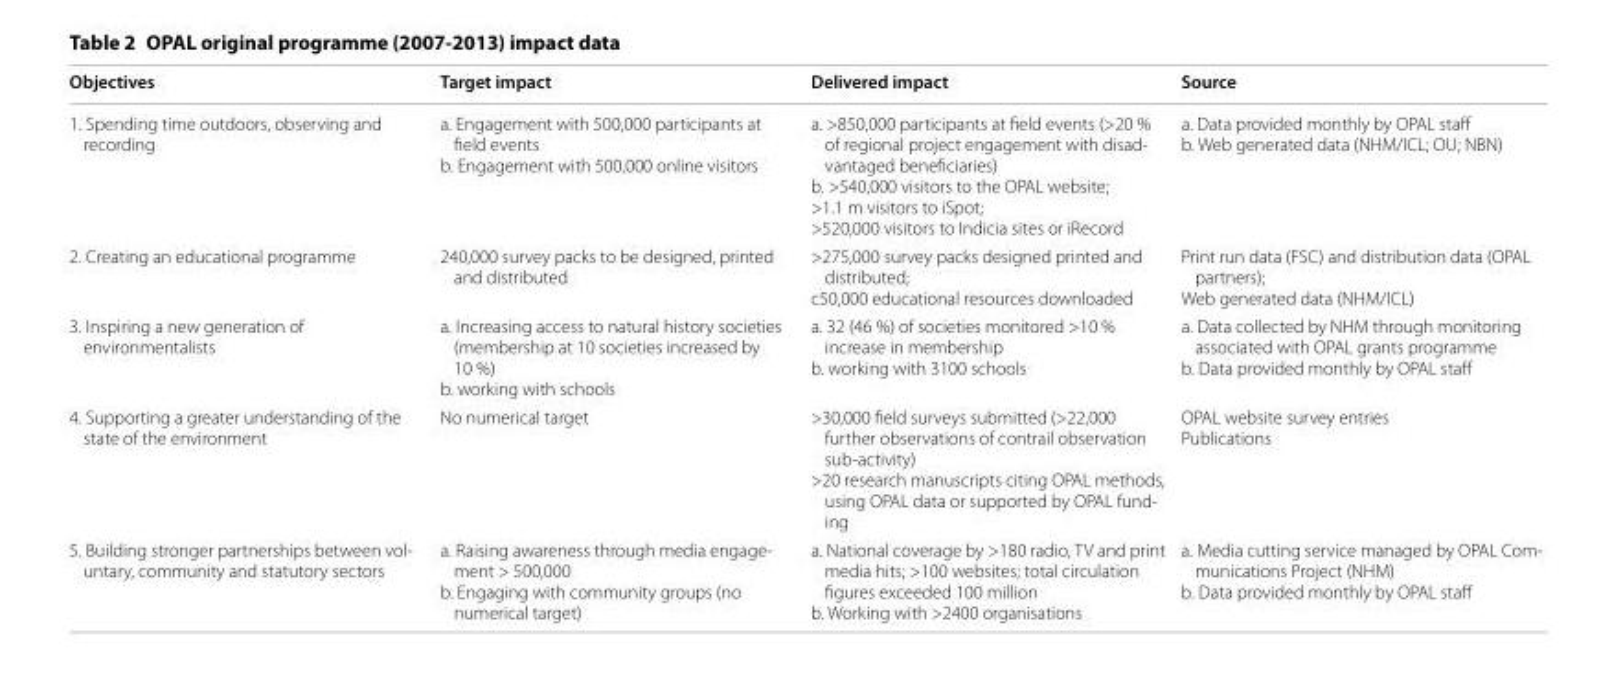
<table><thead><tr><td>Objectives</td><td>Target impact</td><td>Delivered impact</td><td>Source</td></tr></thead><tbody><tr><td>1. Spending time outdoors, observing and recording</td><td>a. Engagement with 500,000 participants at field events b. Engagement with 500,000 online visitors</td><td>a. &gt;850,000 participants at field events (&gt;20 % of regional project engagement with disad‑ vantaged beneficiaries) b. &gt;540,000 visitors to the OPAL website; &gt;1.1 m visitors to iSpot; &gt;520,000 visitors to Indicia sites or iRecord</td><td>a. Data provided monthly by OPAL staff b. Web generated data (NHM/ICL; OU; NBN)</td></tr><tr><td>2. Creating an educational programme</td><td>240,000 survey packs to be designed, printed and distributed</td><td>&gt;275,000 survey packs designed printed and distributed; c50,000 educational resources downloaded</td><td>Print run data (FSC) and distribution data (OPAL partners); Web generated data (NHM/ICL)</td></tr><tr><td>3. Inspiring a new generation of environmentalists</td><td>a. Increasing access to natural history societies (membership at 10 societies increased by 10 %) b. working with schools</td><td>a. 32 (46 %) of societies monitored &gt;10 % increase in membership b. working with 3100 schools</td><td>a. Data collected by NHM through monitoring associated with OPAL grants programme b. Data provided monthly by OPAL staff</td></tr><tr><td>4. Supporting a greater understanding of the state of the environment</td><td>No numerical target</td><td>&gt;30,000 field surveys submitted (&gt;22,000 further observations of contrail observation sub‑activity) &gt;20 research manuscripts citing OPAL methods, using OPAL data or supported by OPAL fund‑ ing</td><td>OPAL website survey entries Publications</td></tr><tr><td>5. Building stronger partnerships between vol‑ untary, community and statutory sectors</td><td>a. Raising awareness through media engage‑ ment &gt; 500,000 b. Engaging with community groups (no numerical target)</td><td>a. National coverage by &gt;180 radio, TV and print media hits; &gt;100 websites; total circulation figures exceeded 100 million b. Working with &gt;2400 organisations</td><td>a. Media cutting service managed by OPAL Com‑ munications Project (NHM) b. Data provided monthly by OPAL staff</td></tr></tbody></table>